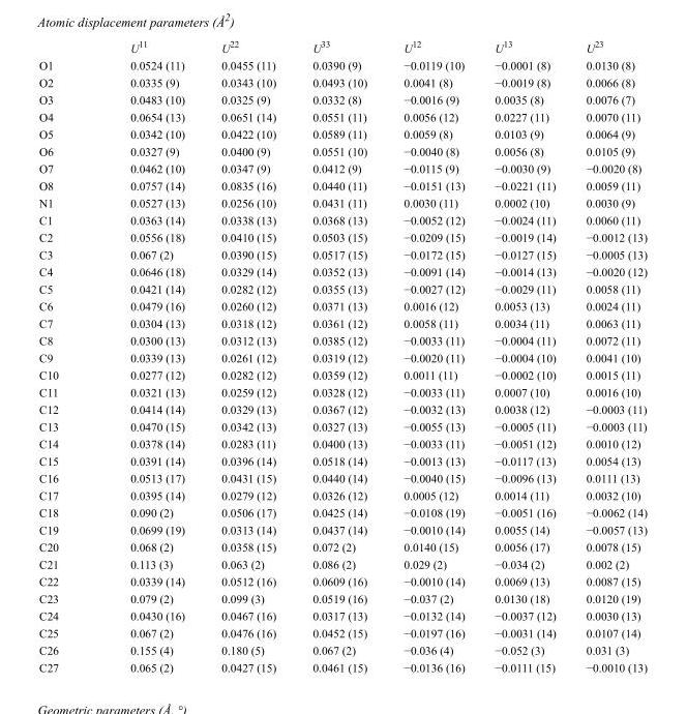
<table><thead><tr><td></td><td>U<sup>11</sup></td><td>U<sup>22</sup></td><td>U<sup>33</sup></td><td>U<sup>12</sup></td><td>U<sup>13</sup></td><td>U<sup>23</sup></td></tr></thead><tbody><tr><td>O1</td><td>0.0524 (11)</td><td>0.0455 (11)</td><td>0.0390 (9)</td><td>−0.0119 (10)</td><td>−0.0001 (8)</td><td>0.0130 (8)</td></tr><tr><td>O2</td><td>0.0335 (9)</td><td>0.0343 (10)</td><td>0.0493 (10)</td><td>0.0041 (8)</td><td>−0.0019 (8)</td><td>0.0066 (8)</td></tr><tr><td>O3</td><td>0.0483 (10)</td><td>0.0325 (9)</td><td>0.0332 (8)</td><td>−0.0016 (9)</td><td>0.0035 (8)</td><td>0.0076 (7)</td></tr><tr><td>O4</td><td>0.0654 (13)</td><td>0.0651 (14)</td><td>0.0551 (11)</td><td>0.0056 (12)</td><td>0.0227 (11)</td><td>0.0070 (11)</td></tr><tr><td>O5</td><td>0.0342 (10)</td><td>0.0422 (10)</td><td>0.0589 (11)</td><td>0.0059 (8)</td><td>0.0103 (9)</td><td>0.0064 (9)</td></tr><tr><td>O6</td><td>0.0327 (9)</td><td>0.0400 (9)</td><td>0.0551 (10)</td><td>−0.0040 (8)</td><td>0.0056 (8)</td><td>0.0105 (9)</td></tr><tr><td>O7</td><td>0.0462 (10)</td><td>0.0347 (9)</td><td>0.0412 (9)</td><td>−0.0115 (9)</td><td>−0.0030 (9)</td><td>−0.0020 (8)</td></tr><tr><td>O8</td><td>0.0757 (14)</td><td>0.0835 (16)</td><td>0.0440 (11)</td><td>−0.0151 (13)</td><td>−0.0221 (11)</td><td>0.0059 (11)</td></tr><tr><td>N1</td><td>0.0527 (13)</td><td>0.0256 (10)</td><td>0.0431 (11)</td><td>0.0030 (11)</td><td>0.0002 (10)</td><td>0.0030 (9)</td></tr><tr><td>C1</td><td>0.0363 (14)</td><td>0.0338 (13)</td><td>0.0368 (13)</td><td>−0.0052 (12)</td><td>−0.0024 (11)</td><td>0.0060 (11)</td></tr><tr><td>C2</td><td>0.0556 (18)</td><td>0.0410 (15)</td><td>0.0503 (15)</td><td>−0.0209 (15)</td><td>−0.0019 (14)</td><td>−0.0012 (13)</td></tr><tr><td>C3</td><td>0.067 (2)</td><td>0.0390 (15)</td><td>0.0517 (15)</td><td>−0.0172 (15)</td><td>−0.0127 (15)</td><td>−0.0005 (13)</td></tr><tr><td>C4</td><td>0.0646 (18)</td><td>0.0329 (14)</td><td>0.0352 (13)</td><td>−0.0091 (14)</td><td>−0.0014 (13)</td><td>−0.0020 (12)</td></tr><tr><td>C5</td><td>0.0421 (14)</td><td>0.0282 (12)</td><td>0.0355 (13)</td><td>−0.0027 (12)</td><td>−0.0029 (11)</td><td>0.0058 (11)</td></tr><tr><td>C6</td><td>0.0479 (16)</td><td>0.0260 (12)</td><td>0.0371 (13)</td><td>0.0016 (12)</td><td>0.0053 (13)</td><td>0.0024 (11)</td></tr><tr><td>C7</td><td>0.0304 (13)</td><td>0.0318 (12)</td><td>0.0361 (12)</td><td>0.0058 (11)</td><td>0.0034 (11)</td><td>0.0063 (11)</td></tr><tr><td>C8</td><td>0.0300 (13)</td><td>0.0312 (13)</td><td>0.0385 (12)</td><td>−0.0033 (11)</td><td>−0.0004 (11)</td><td>0.0072 (11)</td></tr><tr><td>C9</td><td>0.0339 (13)</td><td>0.0261 (12)</td><td>0.0319 (12)</td><td>−0.0020 (11)</td><td>−0.0004 (10)</td><td>0.0041 (10)</td></tr><tr><td>C10</td><td>0.0277 (12)</td><td>0.0282 (12)</td><td>0.0359 (12)</td><td>0.0011 (11)</td><td>−0.0002 (10)</td><td>0.0015 (11)</td></tr><tr><td>C11</td><td>0.0321 (13)</td><td>0.0259 (12)</td><td>0.0328 (12)</td><td>−0.0033 (11)</td><td>0.0007 (10)</td><td>0.0016 (10)</td></tr><tr><td>C12</td><td>0.0414 (14)</td><td>0.0329 (13)</td><td>0.0367 (12)</td><td>−0.0032 (13)</td><td>0.0038 (12)</td><td>−0.0003 (11)</td></tr><tr><td>C13</td><td>0.0470 (15)</td><td>0.0342 (13)</td><td>0.0327 (13)</td><td>−0.0055 (13)</td><td>−0.0005 (11)</td><td>−0.0003 (11)</td></tr><tr><td>C14</td><td>0.0378 (14)</td><td>0.0283 (11)</td><td>0.0400 (13)</td><td>−0.0033 (11)</td><td>−0.0051 (12)</td><td>0.0010 (12)</td></tr><tr><td>C15</td><td>0.0391 (14)</td><td>0.0396 (14)</td><td>0.0518 (14)</td><td>−0.0013 (13)</td><td>−0.0117 (13)</td><td>0.0054 (13)</td></tr><tr><td>C16</td><td>0.0513 (17)</td><td>0.0431 (15)</td><td>0.0440 (14)</td><td>−0.0040 (15)</td><td>−0.0096 (13)</td><td>0.0111 (13)</td></tr><tr><td>C17</td><td>0.0395 (14)</td><td>0.0279 (12)</td><td>0.0326 (12)</td><td>0.0005 (12)</td><td>0.0014 (11)</td><td>0.0032 (10)</td></tr><tr><td>C18</td><td>0.090 (2)</td><td>0.0506 (17)</td><td>0.0425 (14)</td><td>−0.0108 (19)</td><td>−0.0051 (16)</td><td>−0.0062 (14)</td></tr><tr><td>C19</td><td>0.0699 (19)</td><td>0.0313 (14)</td><td>0.0437 (14)</td><td>−0.0010 (14)</td><td>0.0055 (14)</td><td>−0.0057 (13)</td></tr><tr><td>C20</td><td>0.068 (2)</td><td>0.0358 (15)</td><td>0.072 (2)</td><td>0.0140 (15)</td><td>0.0056 (17)</td><td>0.0078 (15)</td></tr><tr><td>C21</td><td>0.113 (3)</td><td>0.063 (2)</td><td>0.086 (2)</td><td>0.029 (2)</td><td>−0.034 (2)</td><td>0.002 (2)</td></tr><tr><td>C22</td><td>0.0339 (14)</td><td>0.0512 (16)</td><td>0.0609 (16)</td><td>−0.0010 (14)</td><td>0.0069 (13)</td><td>0.0087 (15)</td></tr><tr><td>C23</td><td>0.079 (2)</td><td>0.099 (3)</td><td>0.0519 (16)</td><td>−0.037 (2)</td><td>0.0130 (18)</td><td>0.0120 (19)</td></tr><tr><td>C24</td><td>0.0430 (16)</td><td>0.0467 (16)</td><td>0.0317 (13)</td><td>−0.0132 (14)</td><td>−0.0037 (12)</td><td>0.0030 (13)</td></tr><tr><td>C25</td><td>0.067 (2)</td><td>0.0476 (16)</td><td>0.0452 (15)</td><td>−0.0197 (16)</td><td>−0.0031 (14)</td><td>0.0107 (14)</td></tr><tr><td>C26</td><td>0.155 (4)</td><td>0.180 (5)</td><td>0.067 (2)</td><td>−0.036 (4)</td><td>−0.052 (3)</td><td>0.031 (3)</td></tr><tr><td>C27</td><td>0.065 (2)</td><td>0.0427 (15)</td><td>0.0461 (15)</td><td>−0.0136 (16)</td><td>−0.0111 (15)</td><td>−0.0010 (13)</td></tr></tbody></table>